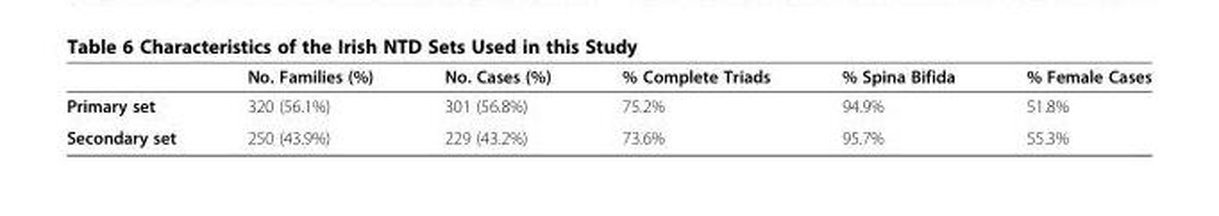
<table><thead><tr><td></td><td>No. Families (%)</td><td>No. Cases (%)</td><td>% Complete Triads</td><td>% Spina Bifida</td><td>% Female Cases</td></tr></thead><tbody><tr><td>Primary set</td><td>320 (56.1%)</td><td>301 (56.8%)</td><td>75.2%</td><td>94.9%</td><td>51.8%</td></tr><tr><td>Secondary set</td><td>250 (43.9%)</td><td>229 (43.2%)</td><td>73.6%</td><td>95.7%</td><td>55.3%</td></tr></tbody></table>